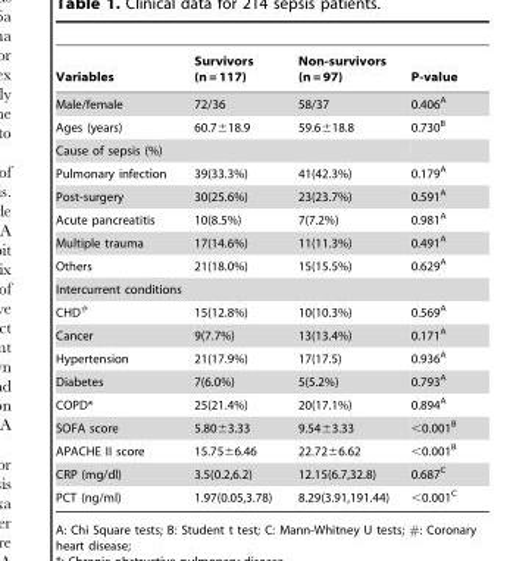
<table><thead><tr><td>Variables</td><td>Survivors (n = 117)</td><td>Non-survivors (n = 97)</td><td>P-value</td></tr></thead><tbody><tr><td>Male/female</td><td>72/36</td><td>58/37</td><td>0.406<sup>A</sup></td></tr><tr><td>Ages (years)</td><td>60.7±18.9</td><td>59.6±18.8</td><td>0.730<sup>B</sup></td></tr><tr><td colspan="4">Cause of sepsis (%)</td></tr><tr><td>Pulmonary infection</td><td>39(33.3%)</td><td>41(42.3%)</td><td>0.179<sup>A</sup></td></tr><tr><td>Post-surgery</td><td>30(25.6%)</td><td>23(23.7%)</td><td>0.591<sup>A</sup></td></tr><tr><td>Acute pancreatitis</td><td>10(8.5%)</td><td>7(7.2%)</td><td>0.981<sup>A</sup></td></tr><tr><td>Multiple trauma</td><td>17(14.6%)</td><td>11(11.3%)</td><td>0.491<sup>A</sup></td></tr><tr><td>Others</td><td>21(18.0%)</td><td>15(15.5%)</td><td>0.629<sup>A</sup></td></tr><tr><td colspan="4">Intercurrent conditions</td></tr><tr><td>CHD<sup>#</sup></td><td>15(12.8%)</td><td>10(10.3%)</td><td>0.569<sup>A</sup></td></tr><tr><td>Cancer</td><td>9(7.7%)</td><td>13(13.4%)</td><td>0.171<sup>A</sup></td></tr><tr><td>Hypertension</td><td>21(17.9%)</td><td>17(17.5)</td><td>0.936<sup>A</sup></td></tr><tr><td>Diabetes</td><td>7(6.0%)</td><td>5(5.2%)</td><td>0.793<sup>A</sup></td></tr><tr><td>COPD*</td><td>25(21.4%)</td><td>20(17.1%)</td><td>0.894<sup>A</sup></td></tr><tr><td>SOFA score</td><td>5.80±3.33</td><td>9.54±3.33</td><td>&lt;0.001<sup>B</sup></td></tr><tr><td>APACHE II score</td><td>15.75±6.46</td><td>22.72±6.62</td><td>&lt;0.001<sup>B</sup></td></tr><tr><td>CRP (mg/dl)</td><td>3.5(0.2,6.2)</td><td>12.15(6.7,32.8)</td><td>0.687<sup>C</sup></td></tr><tr><td>PCT (ng/ml)</td><td>1.97(0.05,3.78)</td><td>8.29(3.91,191.44)</td><td>&lt;0.001<sup>C</sup></td></tr></tbody></table>